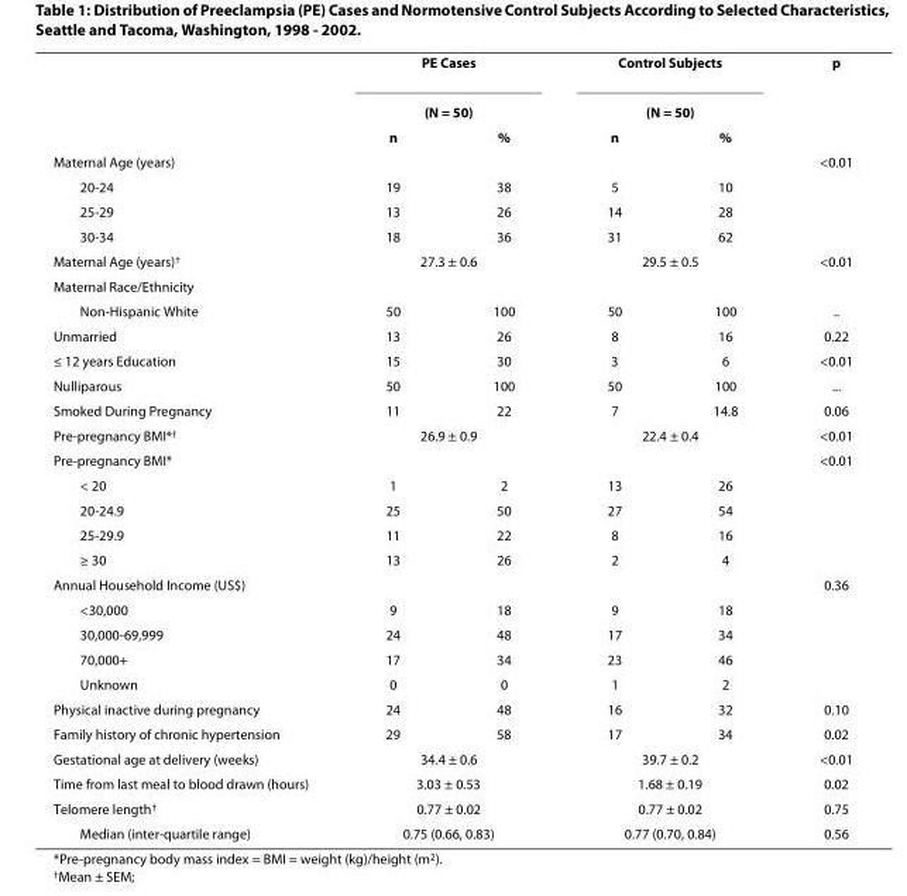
<table><thead><tr><td rowspan="3"></td><td rowspan="2" colspan="2">PE Cases (N = 50)</td><td rowspan="2" colspan="2">Control Subjects (N = 50)</td><td rowspan="3">p</td></tr><tr></tr><tr><td>n</td><td>%</td><td>n</td><td>%</td></tr></thead><tbody><tr><td>Maternal Age (years)</td><td></td><td></td><td></td><td></td><td>&lt;0.01</td></tr><tr><td>20-24</td><td>19</td><td>38</td><td>5</td><td>10</td><td></td></tr><tr><td>25-29</td><td>13</td><td>26</td><td>14</td><td>28</td><td></td></tr><tr><td>30-34</td><td>18</td><td>36</td><td>31</td><td>62</td><td></td></tr><tr><td>Maternal Age (years)<sup>†</sup></td><td colspan="2">27.3 ± 0.6</td><td colspan="2">29.5 ± 0.5</td><td>&lt;0.01</td></tr><tr><td colspan="6">Maternal Race/Ethnicity</td></tr><tr><td>Non-Hispanic White</td><td>50</td><td>100</td><td>50</td><td>100</td><td>..</td></tr><tr><td>Unmarried</td><td>13</td><td>26</td><td>8</td><td>16</td><td>0.22</td></tr><tr><td>≤ 12 years Education</td><td>15</td><td>30</td><td>3</td><td>6</td><td>&lt;0.01</td></tr><tr><td>Nulliparous</td><td>50</td><td>100</td><td>50</td><td>100</td><td>...</td></tr><tr><td>Smoked During Pregnancy</td><td>11</td><td>22</td><td>7</td><td>14.8</td><td>0.06</td></tr><tr><td>Pre-pregnancy BMI*<sup>†</sup></td><td colspan="2">26.9 ± 0.9</td><td colspan="2">22.4 ± 0.4</td><td>&lt;0.01</td></tr><tr><td>Pre-pregnancy BMI*</td><td></td><td></td><td></td><td></td><td>&lt;0.01</td></tr><tr><td>&lt; 20</td><td>1</td><td>2</td><td>13</td><td>26</td><td></td></tr><tr><td>20-24.9</td><td>25</td><td>50</td><td>27</td><td>54</td><td></td></tr><tr><td>25-29.9</td><td>11</td><td>22</td><td>8</td><td>16</td><td></td></tr><tr><td>≥ 30</td><td>13</td><td>26</td><td>2</td><td>4</td><td></td></tr><tr><td>Annual Household Income (US$)</td><td></td><td></td><td></td><td></td><td>0.36</td></tr><tr><td>&lt;30,000</td><td>9</td><td>18</td><td>9</td><td>18</td><td></td></tr><tr><td>30,000-69,999</td><td>24</td><td>48</td><td>17</td><td>34</td><td></td></tr><tr><td>70,000+</td><td>17</td><td>34</td><td>23</td><td>46</td><td></td></tr><tr><td>Unknown</td><td>0</td><td>0</td><td>1</td><td>2</td><td></td></tr><tr><td>Physical inactive during pregnancy</td><td>24</td><td>48</td><td>16</td><td>32</td><td>0.10</td></tr><tr><td>Family history of chronic hypertension</td><td>29</td><td>58</td><td>17</td><td>34</td><td>0.02</td></tr><tr><td>Gestational age at delivery (weeks)</td><td colspan="2">34.4 ± 0.6</td><td colspan="2">39.7 ± 0.2</td><td>&lt;0.01</td></tr><tr><td>Time from last meal to blood drawn (hours)</td><td colspan="2">3.03 ± 0.53</td><td colspan="2">1.68 ± 0.19</td><td>0.02</td></tr><tr><td>Telomere length<sup>†</sup></td><td colspan="2">0.77 ± 0.02</td><td colspan="2">0.77 ± 0.02</td><td>0.75</td></tr><tr><td>Median (inter-quartile range)</td><td colspan="2">0.75 (0.66, 0.83)</td><td colspan="2">0.77 (0.70, 0.84)</td><td>0.56</td></tr></tbody></table>